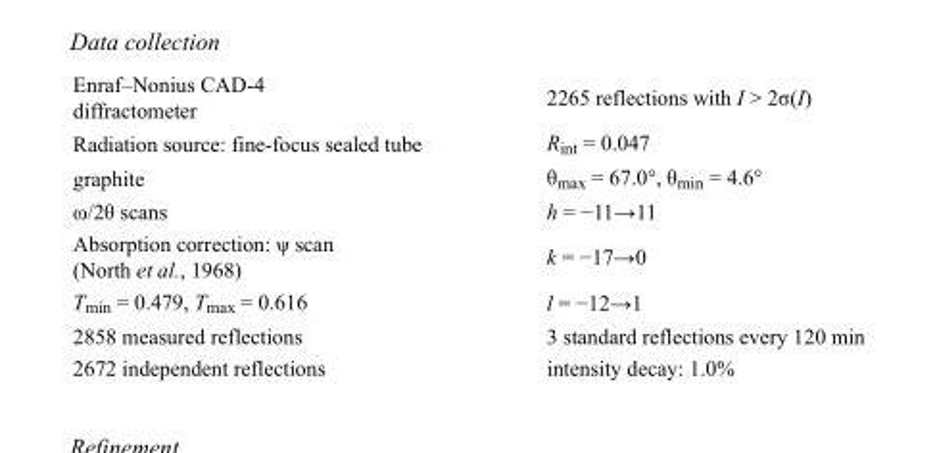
<table><tbody><tr><td>Enraf–Nonius CAD-4 diffractometer</td><td>2265 reflections with I &gt; 2σ(I)</td></tr><tr><td>Radiation source: fine-focus sealed tube</td><td>R<sub>int</sub> = 0.047</td></tr><tr><td>graphite</td><td>θ<sub>max</sub> = 67.0°, θ<sub>min</sub> = 4.6°</td></tr><tr><td>ω/2θ scans</td><td>h = −11→11</td></tr><tr><td>Absorption correction: ψ scan (North et al., 1968)</td><td>k = −17→0</td></tr><tr><td>T<sub>min</sub> = 0.479, T<sub>max</sub> = 0.616</td><td>l = −12→1</td></tr><tr><td>2858 measured reflections</td><td>3 standard reflections every 120 min</td></tr><tr><td>2672 independent reflections</td><td>intensity decay: 1.0%</td></tr></tbody></table>